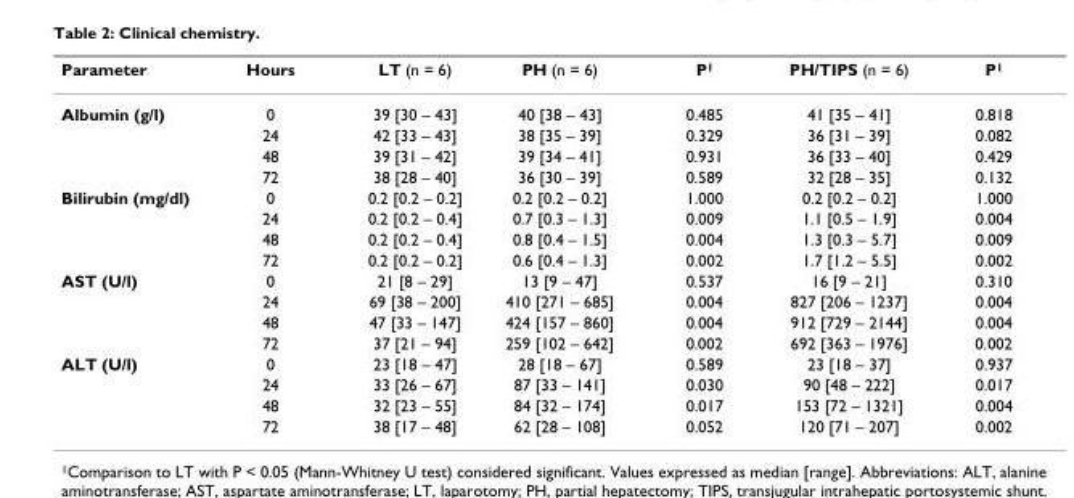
<table><thead><tr><td>Parameter</td><td>Hours</td><td>LT (n = 6)</td><td>PH (n = 6)</td><td>P<sup>1</sup></td><td>PH/TIPS (n = 6)</td><td>P<sup>1</sup></td></tr></thead><tbody><tr><td rowspan="4">Albumin (g/l)</td><td>0</td><td>39 [30 – 43]</td><td>40 [38 – 43]</td><td>0.485</td><td>41 [35 – 41]</td><td>0.818</td></tr><tr><td>24</td><td>42 [33 – 43]</td><td>38 [35 – 39]</td><td>0.329</td><td>36 [31 – 39]</td><td>0.082</td></tr><tr><td>48</td><td>39 [31 – 42]</td><td>39 [34 – 41]</td><td>0.931</td><td>36 [33 – 40]</td><td>0.429</td></tr><tr><td>72</td><td>38 [28 – 40]</td><td>36 [30 – 39]</td><td>0.589</td><td>32 [28 – 35]</td><td>0.132</td></tr><tr><td rowspan="4">Bilirubin (mg/dl)</td><td>0</td><td>0.2 [0.2 – 0.2]</td><td>0.2 [0.2 – 0.2]</td><td>1.000</td><td>0.2 [0.2 – 0.2]</td><td>1.000</td></tr><tr><td>24</td><td>0.2 [0.2 – 0.4]</td><td>0.7 [0.3 – 1.3]</td><td>0.009</td><td>1.1 [0.5 – 1.9]</td><td>0.004</td></tr><tr><td>48</td><td>0.2 [0.2 – 0.4]</td><td>0.8 [0.4 – 1.5]</td><td>0.004</td><td>1.3 [0.3 – 5.7]</td><td>0.009</td></tr><tr><td>72</td><td>0.2 [0.2 – 0.2]</td><td>0.6 [0.4 – 1.3]</td><td>0.002</td><td>1.7 [1.2 – 5.5]</td><td>0.002</td></tr><tr><td rowspan="4">AST (U/l)</td><td>0</td><td>21 [8 – 29]</td><td>13 [9 – 47]</td><td>0.537</td><td>16 [9 – 21]</td><td>0.310</td></tr><tr><td>24</td><td>69 [38 – 200]</td><td>410 [271 – 685]</td><td>0.004</td><td>827 [206 – 1237]</td><td>0.004</td></tr><tr><td>48</td><td>47 [33 – 147]</td><td>424 [157 – 860]</td><td>0.004</td><td>912 [729 – 2144]</td><td>0.004</td></tr><tr><td>72</td><td>37 [21 – 94]</td><td>259 [102 – 642]</td><td>0.002</td><td>692 [363 – 1976]</td><td>0.002</td></tr><tr><td rowspan="4">ALT (U/l)</td><td>0</td><td>23 [18 – 47]</td><td>28 [18 – 67]</td><td>0.589</td><td>23 [18 – 37]</td><td>0.937</td></tr><tr><td>24</td><td>33 [26 – 67]</td><td>87 [33 – 141]</td><td>0.030</td><td>90 [48 – 222]</td><td>0.017</td></tr><tr><td>48</td><td>32 [23 – 55]</td><td>84 [32 – 174]</td><td>0.017</td><td>153 [72 – 1321]</td><td>0.004</td></tr><tr><td>72</td><td>38 [17 – 48]</td><td>62 [28 – 108]</td><td>0.052</td><td>120 [71 – 207]</td><td>0.002</td></tr></tbody></table>